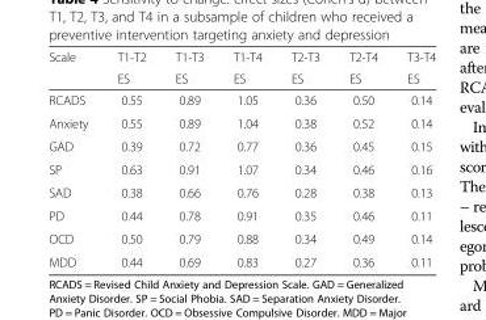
<table><thead><tr><td rowspan="2">Scale</td><td rowspan="2">T1-T2 ES</td><td rowspan="2">T1-T3 ES</td><td rowspan="2">T1-T4 ES</td><td rowspan="2">T2-T3 ES</td><td rowspan="2">T2-T4 ES</td><td rowspan="2">T3-T4 ES</td></tr><tr></tr></thead><tbody><tr><td>RCADS</td><td>0.55</td><td>0.89</td><td>1.05</td><td>0.36</td><td>0.50</td><td>0.14</td></tr><tr><td>Anxiety</td><td>0.55</td><td>0.89</td><td>1.04</td><td>0.38</td><td>0.52</td><td>0.14</td></tr><tr><td>GAD</td><td>0.39</td><td>0.72</td><td>0.77</td><td>0.36</td><td>0.45</td><td>0.15</td></tr><tr><td>SP</td><td>0.63</td><td>0.91</td><td>1.07</td><td>0.34</td><td>0.46</td><td>0.16</td></tr><tr><td>SAD</td><td>0.38</td><td>0.66</td><td>0.76</td><td>0.28</td><td>0.38</td><td>0.13</td></tr><tr><td>PD</td><td>0.44</td><td>0.78</td><td>0.91</td><td>0.35</td><td>0.46</td><td>0.11</td></tr><tr><td>OCD</td><td>0.50</td><td>0.79</td><td>0.88</td><td>0.34</td><td>0.49</td><td>0.14</td></tr><tr><td>MDD</td><td>0.44</td><td>0.69</td><td>0.83</td><td>0.27</td><td>0.36</td><td>0.11</td></tr></tbody></table>